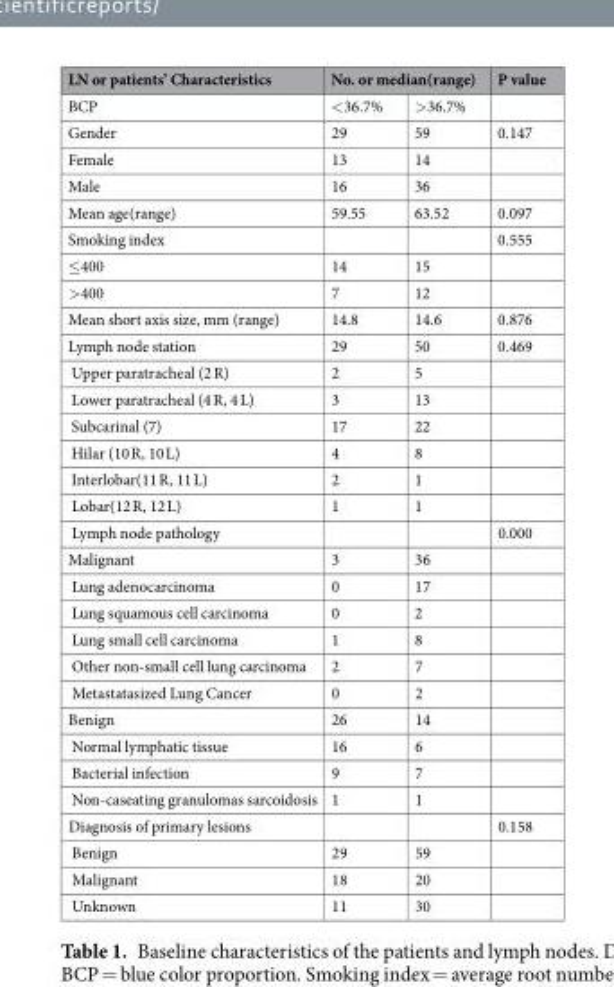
<table><thead><tr><td rowspan="2">LN or patients’ Characteristics BCP</td><td colspan="2">No. or median(range)</td><td rowspan="2">P value</td></tr><tr><td>&lt;36.7%</td><td>&gt;36.7%</td></tr></thead><tbody><tr><td>Gender</td><td>29</td><td>59</td><td>0.147</td></tr><tr><td>Female</td><td>13</td><td>14</td><td></td></tr><tr><td>Male</td><td>16</td><td>36</td><td></td></tr><tr><td>Mean age(range)</td><td>59.55</td><td>63.52</td><td>0.097</td></tr><tr><td>Smoking index</td><td></td><td></td><td>0.555</td></tr><tr><td>≤400</td><td>14</td><td>15</td><td></td></tr><tr><td>&gt;400</td><td>7</td><td>12</td><td></td></tr><tr><td>Mean short axis size, mm (range)</td><td>14.8</td><td>14.6</td><td>0.876</td></tr><tr><td>Lymph node station</td><td>29</td><td>50</td><td>0.469</td></tr><tr><td>Upper paratracheal (2 R)</td><td>2</td><td>5</td><td></td></tr><tr><td>Lower paratracheal (4 R, 4 L)</td><td>3</td><td>13</td><td></td></tr><tr><td>Subcarinal (7)</td><td>17</td><td>22</td><td></td></tr><tr><td>Hilar (10 R, 10 L)</td><td>4</td><td>8</td><td></td></tr><tr><td>Interlobar(11 R, 11 L)</td><td>2</td><td>1</td><td></td></tr><tr><td>Lobar(12 R, 12 L)</td><td>1</td><td>1</td><td></td></tr><tr><td>Lymph node pathology</td><td></td><td></td><td>0.000</td></tr><tr><td>Malignant</td><td>3</td><td>36</td><td></td></tr><tr><td>Lung adenocarcinoma</td><td>0</td><td>17</td><td></td></tr><tr><td>Lung squamous cell carcinoma</td><td>0</td><td>2</td><td></td></tr><tr><td>Lung small cell carcinoma</td><td>1</td><td>8</td><td></td></tr><tr><td>Other non-small cell lung carcinoma</td><td>2</td><td>7</td><td></td></tr><tr><td>Metastatasized Lung Cancer</td><td>0</td><td>2</td><td></td></tr><tr><td>Benign</td><td>26</td><td>14</td><td></td></tr><tr><td>Normal lymphatic tissue</td><td>16</td><td>6</td><td></td></tr><tr><td>Bacterial infection</td><td>9</td><td>7</td><td></td></tr><tr><td>Non-caseating granulomas sarcoidosis</td><td>1</td><td>1</td><td></td></tr><tr><td>Diagnosis of primary lesions</td><td></td><td></td><td>0.158</td></tr><tr><td>Benign</td><td>29</td><td>59</td><td></td></tr><tr><td>Malignant</td><td>18</td><td>20</td><td></td></tr><tr><td>Unknown</td><td>11</td><td>30</td><td></td></tr></tbody></table>